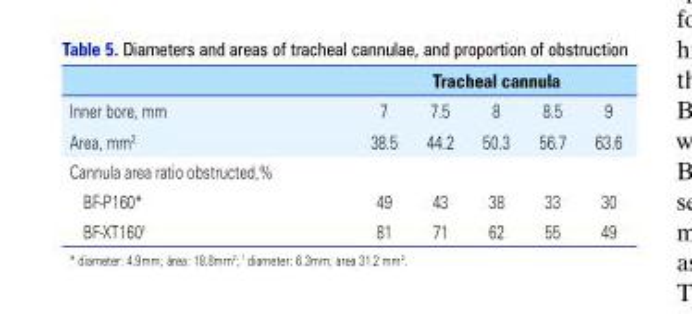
<table><thead><tr><td rowspan="2">Inner bore, mm</td><td colspan="5">Tracheal cannula</td></tr><tr><td>7</td><td>7.5</td><td>8</td><td>8.5</td><td>9</td></tr></thead><tbody><tr><td>Area, mm<sup>2</sup></td><td>38.5</td><td>44.2</td><td>50.3</td><td>56.7</td><td>63.6</td></tr><tr><td colspan="6">Cannula area ratio obstructed,%</td></tr><tr><td>BF-P160*</td><td>49</td><td>43</td><td>38</td><td>33</td><td>30</td></tr><tr><td>BF-XT160<sup>†</sup></td><td>81</td><td>71</td><td>62</td><td>55</td><td>49</td></tr></tbody></table>